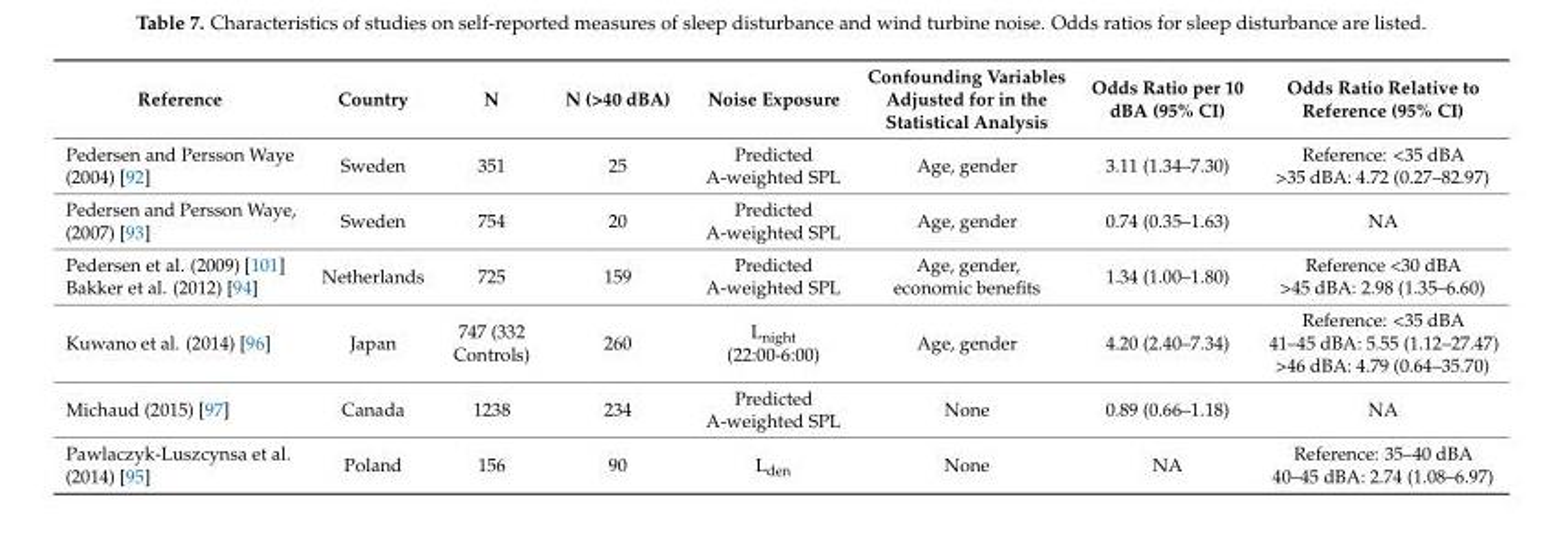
<table><thead><tr><td>Reference</td><td>Country</td><td>N</td><td>N (&gt;40 dBA)</td><td>Noise Exposure</td><td>Confounding Variables Adjusted for in the Statistical Analysis</td><td>Odds Ratio per 10 dBA (95% CI)</td><td>Odds Ratio Relative to Reference (95% CI)</td></tr></thead><tbody><tr><td>Pedersen and Persson Waye (2004) [92]</td><td>Sweden</td><td>351</td><td>25</td><td>Predicted A-weighted SPL</td><td>Age, gender</td><td>3.11 (1.34–7.30)</td><td>Reference: &lt;35 dBA &gt;35 dBA: 4.72 (0.27–82.97)</td></tr><tr><td>Pedersen and Persson Waye, (2007) [93]</td><td>Sweden</td><td>754</td><td>20</td><td>Predicted A-weighted SPL</td><td>Age, gender</td><td>0.74 (0.35–1.63)</td><td>NA</td></tr><tr><td>Pedersen et al. (2009) [101] Bakker et al. (2012) [94]</td><td>Netherlands</td><td>725</td><td>159</td><td>Predicted A-weighted SPL</td><td>Age, gender, economic benefits</td><td>1.34 (1.00–1.80)</td><td>Reference &lt;30 dBA &gt;45 dBA: 2.98 (1.35–6.60)</td></tr><tr><td>Kuwano et al. (2014) [96]</td><td>Japan</td><td>747 (332 Controls)</td><td>260</td><td>L<sub>night</sub> (22:00-6:00)</td><td>Age, gender</td><td>4.20 (2.40–7.34)</td><td>Reference: &lt;35 dBA 41–45 dBA: 5.55 (1.12–27.47) &gt;46 dBA: 4.79 (0.64–35.70)</td></tr><tr><td>Michaud (2015) [97]</td><td>Canada</td><td>1238</td><td>234</td><td>Predicted A-weighted SPL</td><td>None</td><td>0.89 (0.66–1.18)</td><td>NA</td></tr><tr><td>Pawlaczyk-Luszcynsa et al. (2014) [95]</td><td>Poland</td><td>156</td><td>90</td><td>L<sub>den</sub></td><td>None</td><td>NA</td><td>Reference: 35–40 dBA 40–45 dBA: 2.74 (1.08–6.97)</td></tr></tbody></table>